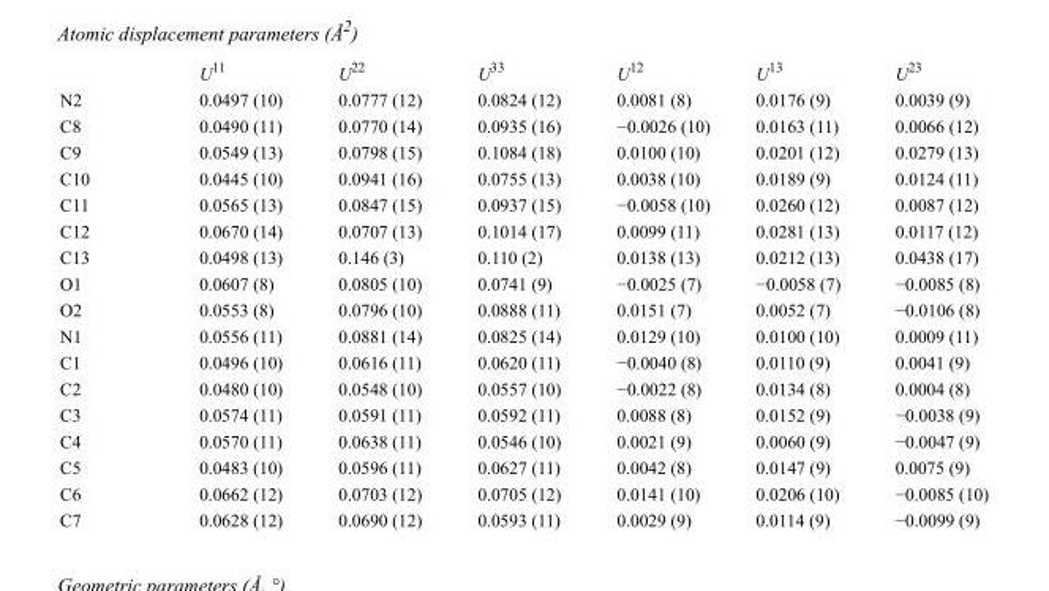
<table><thead><tr><td></td><td>U<sup>11</sup></td><td>U<sup>22</sup></td><td>U<sup>33</sup></td><td>U<sup>12</sup></td><td>U<sup>13</sup></td><td>U<sup>23</sup></td></tr></thead><tbody><tr><td>N2</td><td>0.0497 (10)</td><td>0.0777 (12)</td><td>0.0824 (12)</td><td>0.0081 (8)</td><td>0.0176 (9)</td><td>0.0039 (9)</td></tr><tr><td>C8</td><td>0.0490 (11)</td><td>0.0770 (14)</td><td>0.0935 (16)</td><td>−0.0026 (10)</td><td>0.0163 (11)</td><td>0.0066 (12)</td></tr><tr><td>C9</td><td>0.0549 (13)</td><td>0.0798 (15)</td><td>0.1084 (18)</td><td>0.0100 (10)</td><td>0.0201 (12)</td><td>0.0279 (13)</td></tr><tr><td>C10</td><td>0.0445 (10)</td><td>0.0941 (16)</td><td>0.0755 (13)</td><td>0.0038 (10)</td><td>0.0189 (9)</td><td>0.0124 (11)</td></tr><tr><td>C11</td><td>0.0565 (13)</td><td>0.0847 (15)</td><td>0.0937 (15)</td><td>−0.0058 (10)</td><td>0.0260 (12)</td><td>0.0087 (12)</td></tr><tr><td>C12</td><td>0.0670 (14)</td><td>0.0707 (13)</td><td>0.1014 (17)</td><td>0.0099 (11)</td><td>0.0281 (13)</td><td>0.0117 (12)</td></tr><tr><td>C13</td><td>0.0498 (13)</td><td>0.146 (3)</td><td>0.110 (2)</td><td>0.0138 (13)</td><td>0.0212 (13)</td><td>0.0438 (17)</td></tr><tr><td>O1</td><td>0.0607 (8)</td><td>0.0805 (10)</td><td>0.0741 (9)</td><td>−0.0025 (7)</td><td>−0.0058 (7)</td><td>−0.0085 (8)</td></tr><tr><td>O2</td><td>0.0553 (8)</td><td>0.0796 (10)</td><td>0.0888 (11)</td><td>0.0151 (7)</td><td>0.0052 (7)</td><td>−0.0106 (8)</td></tr><tr><td>N1</td><td>0.0556 (11)</td><td>0.0881 (14)</td><td>0.0825 (14)</td><td>0.0129 (10)</td><td>0.0100 (10)</td><td>0.0009 (11)</td></tr><tr><td>C1</td><td>0.0496 (10)</td><td>0.0616 (11)</td><td>0.0620 (11)</td><td>−0.0040 (8)</td><td>0.0110 (9)</td><td>0.0041 (9)</td></tr><tr><td>C2</td><td>0.0480 (10)</td><td>0.0548 (10)</td><td>0.0557 (10)</td><td>−0.0022 (8)</td><td>0.0134 (8)</td><td>0.0004 (8)</td></tr><tr><td>C3</td><td>0.0574 (11)</td><td>0.0591 (11)</td><td>0.0592 (11)</td><td>0.0088 (8)</td><td>0.0152 (9)</td><td>−0.0038 (9)</td></tr><tr><td>C4</td><td>0.0570 (11)</td><td>0.0638 (11)</td><td>0.0546 (10)</td><td>0.0021 (9)</td><td>0.0060 (9)</td><td>−0.0047 (9)</td></tr><tr><td>C5</td><td>0.0483 (10)</td><td>0.0596 (11)</td><td>0.0627 (11)</td><td>0.0042 (8)</td><td>0.0147 (9)</td><td>0.0075 (9)</td></tr><tr><td>C6</td><td>0.0662 (12)</td><td>0.0703 (12)</td><td>0.0705 (12)</td><td>0.0141 (10)</td><td>0.0206 (10)</td><td>−0.0085 (10)</td></tr><tr><td>C7</td><td>0.0628 (12)</td><td>0.0690 (12)</td><td>0.0593 (11)</td><td>0.0029 (9)</td><td>0.0114 (9)</td><td>−0.0099 (9)</td></tr></tbody></table>